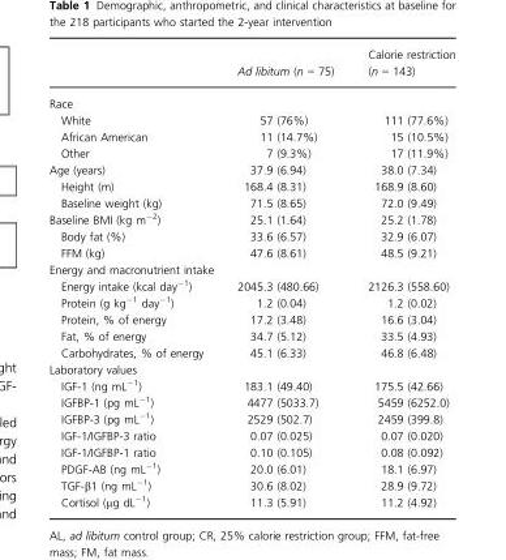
<table><thead><tr><td></td><td>Ad libitum (n = 75)</td><td>Calorie restriction (n = 143)</td></tr></thead><tbody><tr><td colspan="3">Race</td></tr><tr><td>White</td><td>57 (76%)</td><td>111 (77.6%)</td></tr><tr><td>African American</td><td>11 (14.7%)</td><td>15 (10.5%)</td></tr><tr><td>Other</td><td>7 (9.3%)</td><td>17 (11.9%)</td></tr><tr><td>Age (years)</td><td>37.9 (6.94)</td><td>38.0 (7.34)</td></tr><tr><td>Height (m)</td><td>168.4 (8.31)</td><td>168.9 (8.60)</td></tr><tr><td>Baseline weight (kg)</td><td>71.5 (8.65)</td><td>72.0 (9.49)</td></tr><tr><td>Baseline BMI (kg m<sup>−2</sup>)</td><td>25.1 (1.64)</td><td>25.2 (1.78)</td></tr><tr><td>Body fat (%)</td><td>33.6 (6.57)</td><td>32.9 (6.07)</td></tr><tr><td>FFM (kg)</td><td>47.6 (8.61)</td><td>48.5 (9.21)</td></tr><tr><td colspan="3">Energy and macronutrient intake</td></tr><tr><td>Energy intake (kcal day<sup>−1</sup>)</td><td>2045.3 (480.66)</td><td>2126.3 (558.60)</td></tr><tr><td>Protein (g kg<sup>−1</sup> day<sup>−1</sup>)</td><td>1.2 (0.04)</td><td>1.2 (0.02)</td></tr><tr><td>Protein, % of energy</td><td>17.2 (3.48)</td><td>16.6 (3.04)</td></tr><tr><td>Fat, % of energy</td><td>34.7 (5.12)</td><td>33.5 (4.93)</td></tr><tr><td>Carbohydrates, % of energy</td><td>45.1 (6.33)</td><td>46.8 (6.48)</td></tr><tr><td colspan="3">Laboratory values</td></tr><tr><td>IGF-1 (ng mL<sup>−1</sup>)</td><td>183.1 (49.40)</td><td>175.5 (42.66)</td></tr><tr><td>IGFBP-1 (pg mL<sup>−1</sup>)</td><td>4477 (5033.7)</td><td>5459 (6252.0)</td></tr><tr><td>IGFBP-3 (pg mL<sup>−1</sup>)</td><td>2529 (502.7)</td><td>2459 (399.8)</td></tr><tr><td>IGF-1/IGFBP-3 ratio</td><td>0.07 (0.025)</td><td>0.07 (0.020)</td></tr><tr><td>IGF-1/IGFBP-1 ratio</td><td>0.10 (0.105)</td><td>0.08 (0.092)</td></tr><tr><td>PDGF-AB (ng mL<sup>−1</sup>)</td><td>20.0 (6.01)</td><td>18.1 (6.97)</td></tr><tr><td>TGF-β1 (ng mL<sup>−1</sup>)</td><td>30.6 (8.02)</td><td>28.9 (9.72)</td></tr><tr><td>Cortisol (μg dL<sup>−1</sup>)</td><td>11.3 (5.91)</td><td>11.2 (4.92)</td></tr></tbody></table>